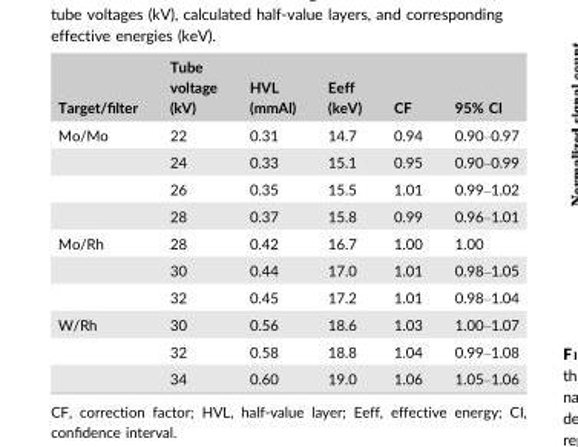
<table><thead><tr><td>Target/filter</td><td>Tube voltage (kV)</td><td>HVL (mmAl)</td><td>Eeff (keV)</td><td>CF</td><td>95% CI</td></tr></thead><tbody><tr><td rowspan="4">Mo/Mo</td><td>22</td><td>0.31</td><td>14.7</td><td>0.94</td><td>0.90–0.97</td></tr><tr><td>24</td><td>0.33</td><td>15.1</td><td>0.95</td><td>0.90–0.99</td></tr><tr><td>26</td><td>0.35</td><td>15.5</td><td>1.01</td><td>0.99–1.02</td></tr><tr><td>28</td><td>0.37</td><td>15.8</td><td>0.99</td><td>0.96–1.01</td></tr><tr><td rowspan="3">Mo/Rh</td><td>28</td><td>0.42</td><td>16.7</td><td>1.00</td><td>1.00</td></tr><tr><td>30</td><td>0.44</td><td>17.0</td><td>1.01</td><td>0.98–1.05</td></tr><tr><td>32</td><td>0.45</td><td>17.2</td><td>1.01</td><td>0.98–1.04</td></tr><tr><td rowspan="3">W/Rh</td><td>30</td><td>0.56</td><td>18.6</td><td>1.03</td><td>1.00–1.07</td></tr><tr><td>32</td><td>0.58</td><td>18.8</td><td>1.04</td><td>0.99–1.08</td></tr><tr><td>34</td><td>0.60</td><td>19.0</td><td>1.06</td><td>1.05–1.06</td></tr></tbody></table>